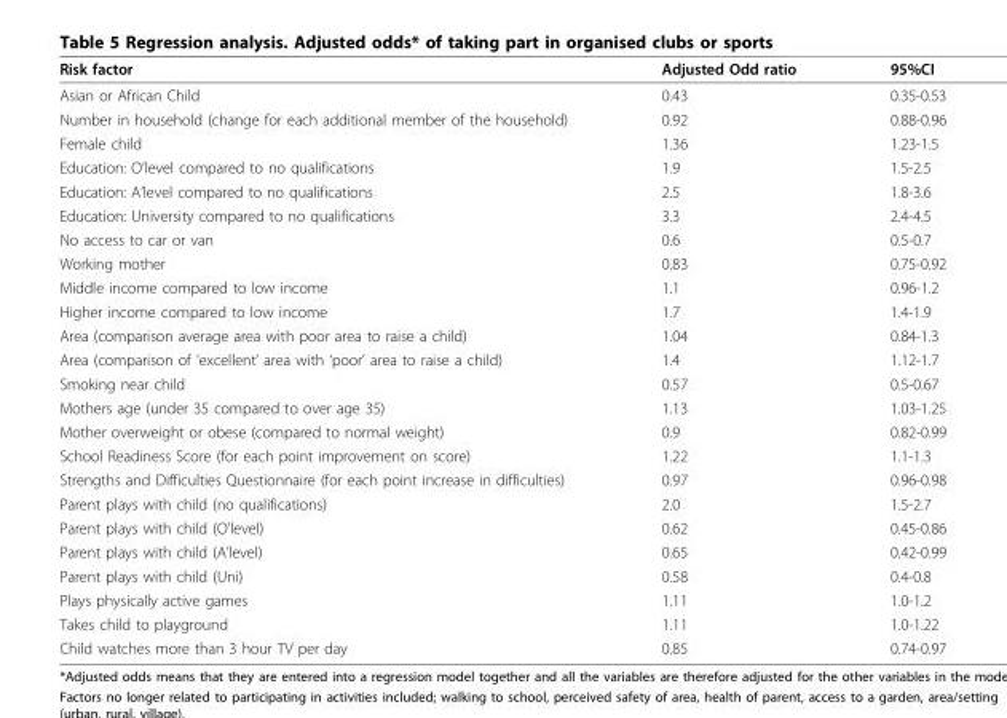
<table><thead><tr><td>Risk factor</td><td>Adjusted Odd ratio</td><td>95%CI</td></tr></thead><tbody><tr><td>Asian or African Child</td><td>0.43</td><td>0.35-0.53</td></tr><tr><td>Number in household (change for each additional member of the household)</td><td>0.92</td><td>0.88-0.96</td></tr><tr><td>Female child</td><td>1.36</td><td>1.23-1.5</td></tr><tr><td>Education: O’level compared to no qualifications</td><td>1.9</td><td>1.5-2.5</td></tr><tr><td>Education: A’level compared to no qualifications</td><td>2.5</td><td>1.8-3.6</td></tr><tr><td>Education: University compared to no qualifications</td><td>3.3</td><td>2.4-4.5</td></tr><tr><td>No access to car or van</td><td>0.6</td><td>0.5-0.7</td></tr><tr><td>Working mother</td><td>0.83</td><td>0.75-0.92</td></tr><tr><td>Middle income compared to low income</td><td>1.1</td><td>0.96-1.2</td></tr><tr><td>Higher income compared to low income</td><td>1.7</td><td>1.4-1.9</td></tr><tr><td>Area (comparison average area with poor area to raise a child)</td><td>1.04</td><td>0.84-1.3</td></tr><tr><td>Area (comparison of ‘excellent’ area with ‘poor’ area to raise a child)</td><td>1.4</td><td>1.12-1.7</td></tr><tr><td>Smoking near child</td><td>0.57</td><td>0.5-0.67</td></tr><tr><td>Mothers age (under 35 compared to over age 35)</td><td>1.13</td><td>1.03-1.25</td></tr><tr><td>Mother overweight or obese (compared to normal weight)</td><td>0.9</td><td>0.82-0.99</td></tr><tr><td>School Readiness Score (for each point improvement on score)</td><td>1.22</td><td>1.1-1.3</td></tr><tr><td>Strengths and Difficulties Questionnaire (for each point increase in difficulties)</td><td>0.97</td><td>0.96-0.98</td></tr><tr><td>Parent plays with child (no qualifications)</td><td>2.0</td><td>1.5-2.7</td></tr><tr><td>Parent plays with child (O’level)</td><td>0.62</td><td>0.45-0.86</td></tr><tr><td>Parent plays with child (A’level)</td><td>0.65</td><td>0.42-0.99</td></tr><tr><td>Parent plays with child (Uni)</td><td>0.58</td><td>0.4-0.8</td></tr><tr><td>Plays physically active games</td><td>1.11</td><td>1.0-1.2</td></tr><tr><td>Takes child to playground</td><td>1.11</td><td>1.0-1.22</td></tr><tr><td>Child watches more than 3 hour TV per day</td><td>0.85</td><td>0.74-0.97</td></tr></tbody></table>